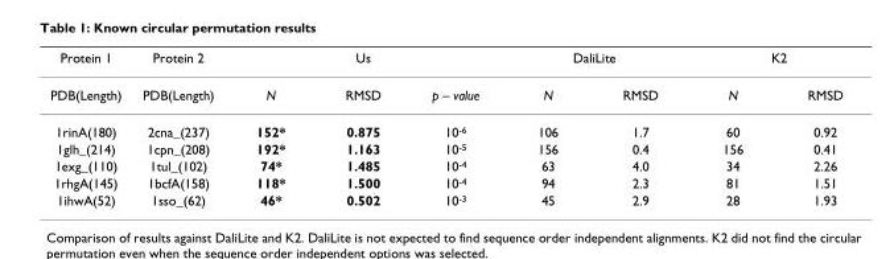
<table><thead><tr><td rowspan="2">Protein 1 PDB(Length)</td><td rowspan="2">Protein 2 PDB(Length)</td><td colspan="3">Us</td><td colspan="2">DaliLite</td><td colspan="2">K2</td></tr><tr><td>N</td><td>RMSD</td><td>p – value</td><td>N</td><td>RMSD</td><td>N</td><td>RMSD</td></tr></thead><tbody><tr><td>1rinA(180)</td><td>2cna_(237)</td><td>152*</td><td>0.875</td><td>10<sup>-6</sup></td><td>106</td><td>1.7</td><td>60</td><td>0.92</td></tr><tr><td>1glh_(214)</td><td>1cpn_(208)</td><td>192*</td><td>1.163</td><td>10<sup>-5</sup></td><td>156</td><td>0.4</td><td>156</td><td>0.41</td></tr><tr><td>1exg_(110)</td><td>1tul_(102)</td><td>74*</td><td>1.485</td><td>10<sup>-4</sup></td><td>63</td><td>4.0</td><td>34</td><td>2.26</td></tr><tr><td>1rhgA(145)</td><td>1bcfA(158)</td><td>118*</td><td>1.500</td><td>10<sup>-4</sup></td><td>94</td><td>2.3</td><td>81</td><td>1.51</td></tr><tr><td>1ihwA(52)</td><td>1sso_(62)</td><td>46*</td><td>0.502</td><td>10<sup>-3</sup></td><td>45</td><td>2.9</td><td>28</td><td>1.93</td></tr></tbody></table>